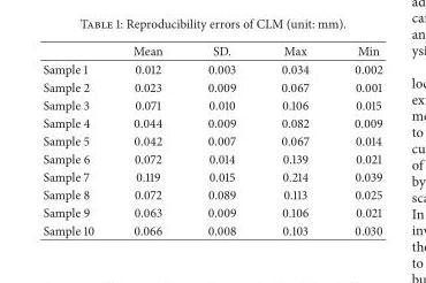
<table><thead><tr><td></td><td>Mean</td><td>SD.</td><td>Max</td><td>Min</td></tr></thead><tbody><tr><td>Sample 1</td><td>0.012</td><td>0.003</td><td>0.034</td><td>0.002</td></tr><tr><td>Sample 2</td><td>0.023</td><td>0.009</td><td>0.067</td><td>0.001</td></tr><tr><td>Sample 3</td><td>0.071</td><td>0.010</td><td>0.106</td><td>0.015</td></tr><tr><td>Sample 4</td><td>0.044</td><td>0.009</td><td>0.082</td><td>0.009</td></tr><tr><td>Sample 5</td><td>0.042</td><td>0.007</td><td>0.067</td><td>0.014</td></tr><tr><td>Sample 6</td><td>0.072</td><td>0.014</td><td>0.139</td><td>0.021</td></tr><tr><td>Sample 7</td><td>0.119</td><td>0.015</td><td>0.214</td><td>0.039</td></tr><tr><td>Sample 8</td><td>0.072</td><td>0.089</td><td>0.113</td><td>0.025</td></tr><tr><td>Sample 9</td><td>0.063</td><td>0.009</td><td>0.106</td><td>0.021</td></tr><tr><td>Sample 10</td><td>0.066</td><td>0.008</td><td>0.103</td><td>0.030</td></tr></tbody></table>